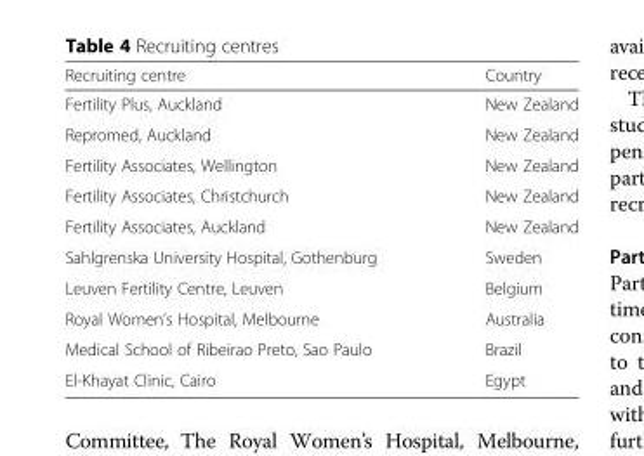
<table><thead><tr><td>Recruiting centre</td><td>Country</td></tr></thead><tbody><tr><td>Fertility Plus, Auckland</td><td>New Zealand</td></tr><tr><td>Repromed, Auckland</td><td>New Zealand</td></tr><tr><td>Fertility Associates, Wellington</td><td>New Zealand</td></tr><tr><td>Fertility Associates, Christchurch</td><td>New Zealand</td></tr><tr><td>Fertility Associates, Auckland</td><td>New Zealand</td></tr><tr><td>Sahlgrenska University Hospital, Gothenburg</td><td>Sweden</td></tr><tr><td>Leuven Fertility Centre, Leuven</td><td>Belgium</td></tr><tr><td>Royal Women’s Hospital, Melbourne</td><td>Australia</td></tr><tr><td>Medical School of Ribeirao Preto, Sao Paulo</td><td>Brazil</td></tr><tr><td>El-Khayat Clinic, Cairo</td><td>Egypt</td></tr></tbody></table>